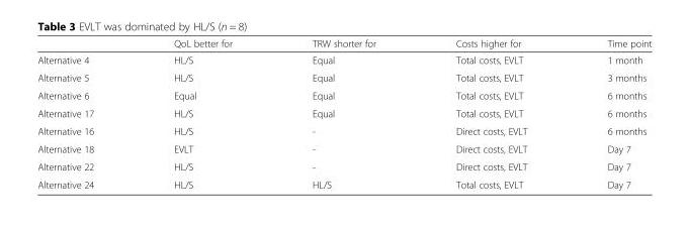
<table><thead><tr><td></td><td>QoL better for</td><td>TRW shorter for</td><td>Costs higher for</td><td>Time point</td></tr></thead><tbody><tr><td>Alternative 4</td><td>HL/S</td><td>Equal</td><td>Total costs, EVLT</td><td>1 month</td></tr><tr><td>Alternative 5</td><td>HL/S</td><td>Equal</td><td>Total costs, EVLT</td><td>3 months</td></tr><tr><td>Alternative 6</td><td>Equal</td><td>Equal</td><td>Total costs, EVLT</td><td>6 months</td></tr><tr><td>Alternative 17</td><td>HL/S</td><td>Equal</td><td>Total costs, EVLT</td><td>6 months</td></tr><tr><td>Alternative 16</td><td>HL/S</td><td>-</td><td>Direct costs, EVLT</td><td>6 months</td></tr><tr><td>Alternative 18</td><td>EVLT</td><td>-</td><td>Direct costs, EVLT</td><td>Day 7</td></tr><tr><td>Alternative 22</td><td>HL/S</td><td>-</td><td>Direct costs, EVLT</td><td>Day 7</td></tr><tr><td>Alternative 24</td><td>HL/S</td><td>HL/S</td><td>Total costs, EVLT</td><td>Day 7</td></tr></tbody></table>